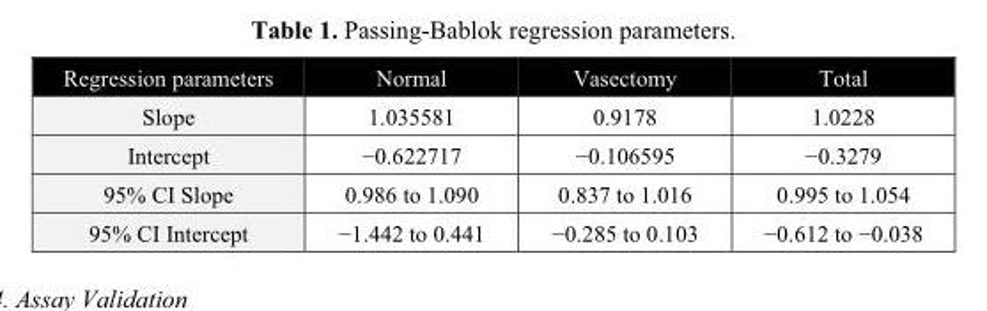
<table><thead><tr><td>Regression parameters</td><td>Normal</td><td>Vasectomy</td><td>Total</td></tr></thead><tbody><tr><td>Slope</td><td>1.035581</td><td>0.9178</td><td>1.0228</td></tr><tr><td>Intercept</td><td>−0.622717</td><td>−0.106595</td><td>−0.3279</td></tr><tr><td>95% CI Slope</td><td>0.986 to 1.090</td><td>0.837 to 1.016</td><td>0.995 to 1.054</td></tr><tr><td>95% CI Intercept</td><td>−1.442 to 0.441</td><td>−0.285 to 0.103</td><td>−0.612 to −0.038</td></tr></tbody></table>